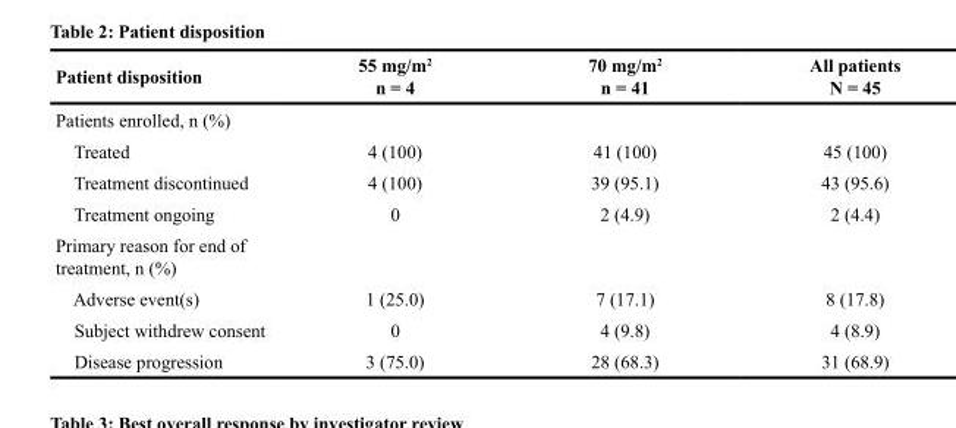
<table><thead><tr><td>Patient disposition</td><td>55 mg/m<sup>2</sup> n = 4</td><td>70 mg/m<sup>2</sup> n = 41</td><td>All patients N = 45</td></tr></thead><tbody><tr><td colspan="4">Patients enrolled, n (%)</td></tr><tr><td>Treated</td><td>4 (100)</td><td>41 (100)</td><td>45 (100)</td></tr><tr><td>Treatment discontinued</td><td>4 (100)</td><td>39 (95.1)</td><td>43 (95.6)</td></tr><tr><td>Treatment ongoing</td><td>0</td><td>2 (4.9)</td><td>2 (4.4)</td></tr><tr><td colspan="4">Primary reason for end of treatment, n (%)</td></tr><tr><td>Adverse event(s)</td><td>1 (25.0)</td><td>7 (17.1)</td><td>8 (17.8)</td></tr><tr><td>Subject withdrew consent</td><td>0</td><td>4 (9.8)</td><td>4 (8.9)</td></tr><tr><td>Disease progression</td><td>3 (75.0)</td><td>28 (68.3)</td><td>31 (68.9)</td></tr></tbody></table>